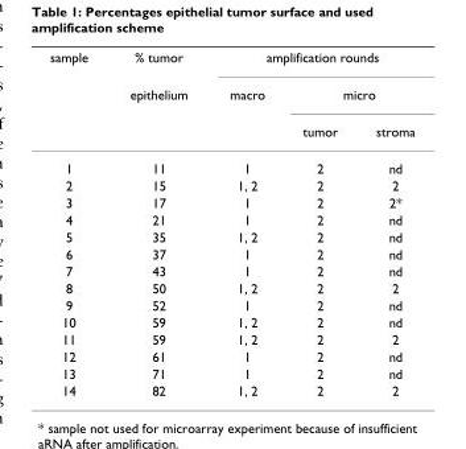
<table><thead><tr><td rowspan="3">sample</td><td rowspan="3">% tumor epithelium</td><td colspan="3">amplification rounds</td></tr><tr><td rowspan="2">macro</td><td colspan="2">micro</td></tr><tr><td>tumor</td><td>stroma</td></tr></thead><tbody><tr><td>1</td><td>11</td><td>1</td><td>2</td><td>nd</td></tr><tr><td>2</td><td>15</td><td>1, 2</td><td>2</td><td>2</td></tr><tr><td>3</td><td>17</td><td>1</td><td>2</td><td>2*</td></tr><tr><td>4</td><td>21</td><td>1</td><td>2</td><td>nd</td></tr><tr><td>5</td><td>35</td><td>1, 2</td><td>2</td><td>nd</td></tr><tr><td>6</td><td>37</td><td>1</td><td>2</td><td>nd</td></tr><tr><td>7</td><td>43</td><td>1</td><td>2</td><td>nd</td></tr><tr><td>8</td><td>50</td><td>1, 2</td><td>2</td><td>2</td></tr><tr><td>9</td><td>52</td><td>1</td><td>2</td><td>nd</td></tr><tr><td>10</td><td>59</td><td>1, 2</td><td>2</td><td>nd</td></tr><tr><td>11</td><td>59</td><td>1, 2</td><td>2</td><td>2</td></tr><tr><td>12</td><td>61</td><td>1</td><td>2</td><td>nd</td></tr><tr><td>13</td><td>71</td><td>1</td><td>2</td><td>nd</td></tr><tr><td>14</td><td>82</td><td>1, 2</td><td>2</td><td>2</td></tr></tbody></table>